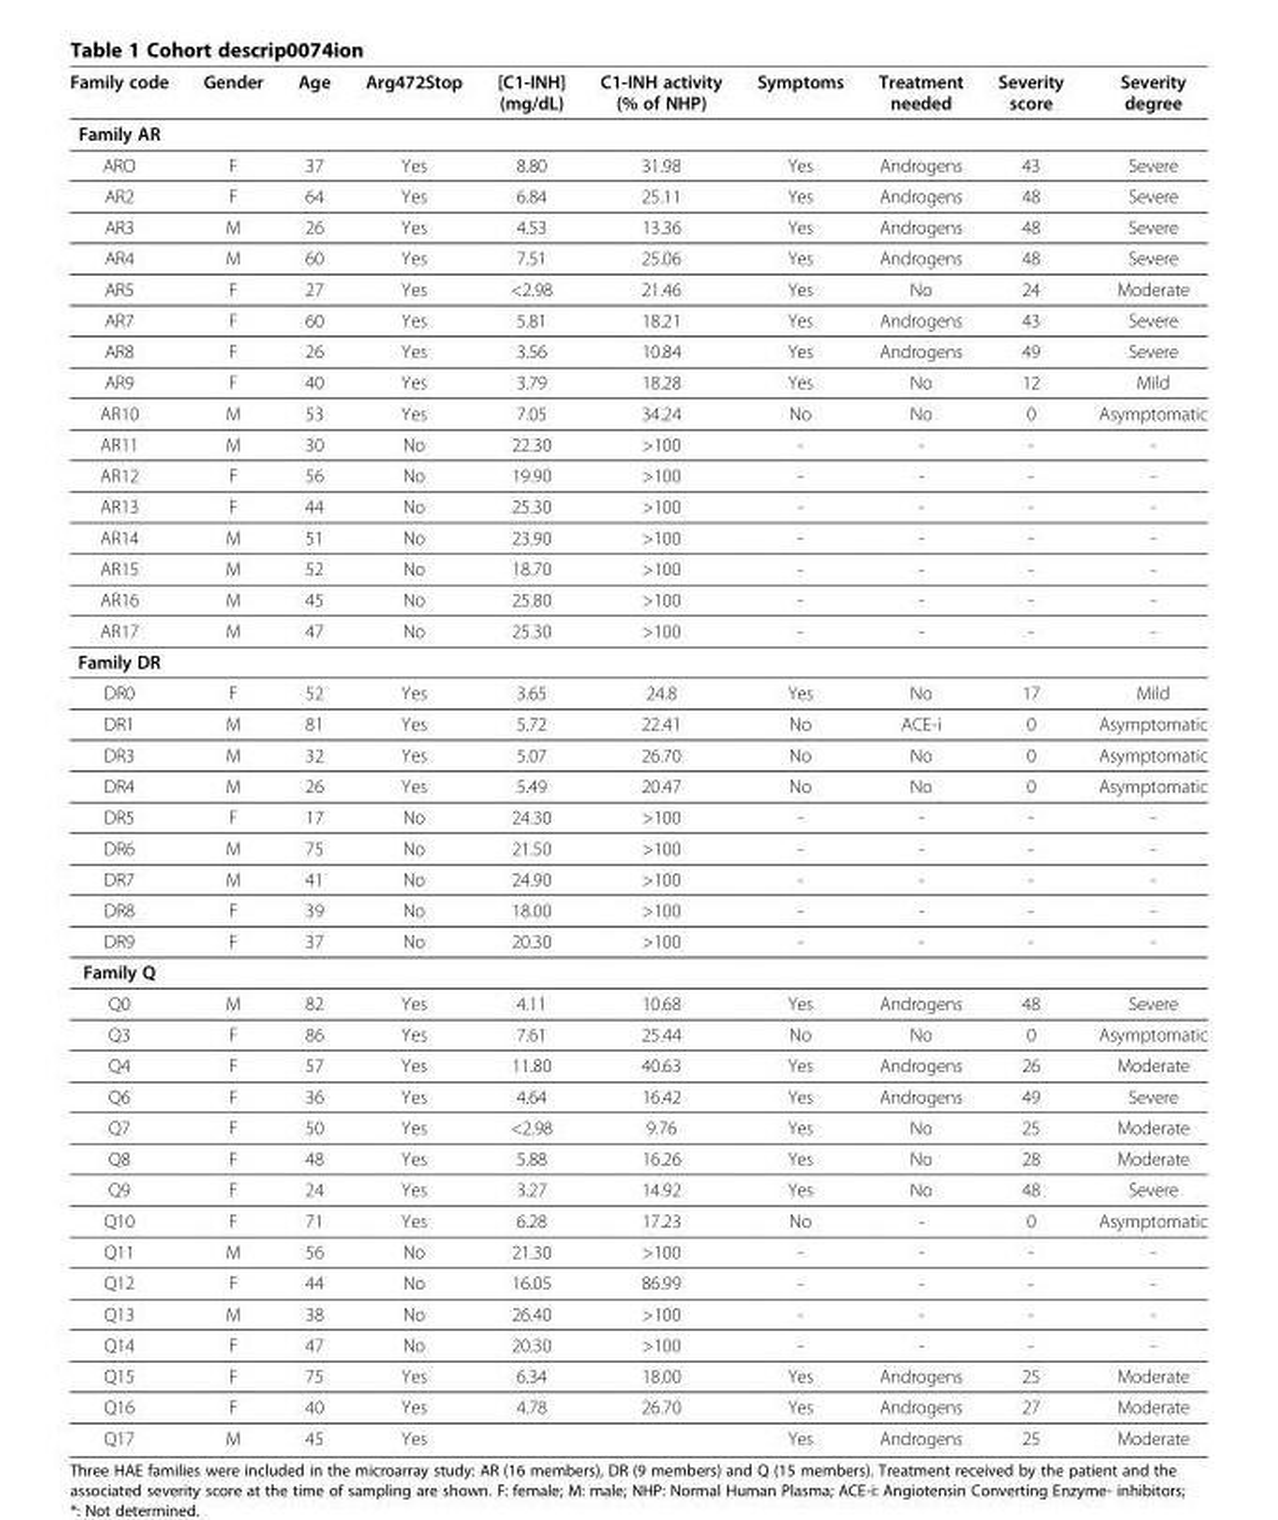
<table><thead><tr><td>Family code</td><td>Gender</td><td>Age</td><td>Arg472Stop</td><td>[C1-INH] (mg/dL)</td><td>C1-INH activity (% of NHP)</td><td>Symptoms</td><td>Treatment needed</td><td>Severity score</td><td>Severity degree</td></tr></thead><tbody><tr><td colspan="10">Family AR</td></tr><tr><td>ARO</td><td>F</td><td>37</td><td>Yes</td><td>8.80</td><td>31.98</td><td>Yes</td><td>Androgens</td><td>43</td><td>Severe</td></tr><tr><td>AR2</td><td>F</td><td>64</td><td>Yes</td><td>6.84</td><td>25.11</td><td>Yes</td><td>Androgens</td><td>48</td><td>Severe</td></tr><tr><td>AR3</td><td>M</td><td>26</td><td>Yes</td><td>4.53</td><td>13.36</td><td>Yes</td><td>Androgens</td><td>48</td><td>Severe</td></tr><tr><td>AR4</td><td>M</td><td>60</td><td>Yes</td><td>7.51</td><td>25.06</td><td>Yes</td><td>Androgens</td><td>48</td><td>Severe</td></tr><tr><td>AR5</td><td>F</td><td>27</td><td>Yes</td><td>&lt;2.98</td><td>21.46</td><td>Yes</td><td>No</td><td>24</td><td>Moderate</td></tr><tr><td>AR7</td><td>F</td><td>60</td><td>Yes</td><td>5.81</td><td>18.21</td><td>Yes</td><td>Androgens</td><td>43</td><td>Severe</td></tr><tr><td>AR8</td><td>F</td><td>26</td><td>Yes</td><td>3.56</td><td>10.84</td><td>Yes</td><td>Androgens</td><td>49</td><td>Severe</td></tr><tr><td>AR9</td><td>F</td><td>40</td><td>Yes</td><td>3.79</td><td>18.28</td><td>Yes</td><td>No</td><td>12</td><td>Mild</td></tr><tr><td>AR10</td><td>M</td><td>53</td><td>Yes</td><td>7.05</td><td>34.24</td><td>No</td><td>No</td><td>0</td><td>Asymptomatic</td></tr><tr><td>AR11</td><td>M</td><td>30</td><td>No</td><td>22.30</td><td>&gt;100</td><td>-</td><td>-</td><td>-</td><td>-</td></tr><tr><td>AR12</td><td>F</td><td>56</td><td>No</td><td>19.90</td><td>&gt;100</td><td>-</td><td>-</td><td>-</td><td>-</td></tr><tr><td>AR13</td><td>F</td><td>44</td><td>No</td><td>25.30</td><td>&gt;100</td><td>-</td><td>-</td><td>-</td><td>-</td></tr><tr><td>AR14</td><td>M</td><td>51</td><td>No</td><td>23.90</td><td>&gt;100</td><td>-</td><td>-</td><td>-</td><td>-</td></tr><tr><td>AR15</td><td>M</td><td>52</td><td>No</td><td>18.70</td><td>&gt;100</td><td>-</td><td>-</td><td>-</td><td>-</td></tr><tr><td>AR16</td><td>M</td><td>45</td><td>No</td><td>25.80</td><td>&gt;100</td><td>-</td><td>-</td><td>-</td><td>-</td></tr><tr><td>AR17</td><td>M</td><td>47</td><td>No</td><td>25.30</td><td>&gt;100</td><td>-</td><td>-</td><td>-</td><td>-</td></tr><tr><td colspan="10">Family DR</td></tr><tr><td>DR0</td><td>F</td><td>52</td><td>Yes</td><td>3.65</td><td>24.8</td><td>Yes</td><td>No</td><td>17</td><td>Mild</td></tr><tr><td>DR1</td><td>M</td><td>81</td><td>Yes</td><td>5.72</td><td>22.41</td><td>No</td><td>ACE-i</td><td>0</td><td>Asymptomatic</td></tr><tr><td>DR3</td><td>M</td><td>32</td><td>Yes</td><td>5.07</td><td>26.70</td><td>No</td><td>No</td><td>0</td><td>Asymptomatic</td></tr><tr><td>DR4</td><td>M</td><td>26</td><td>Yes</td><td>5.49</td><td>20.47</td><td>No</td><td>No</td><td>0</td><td>Asymptomatic</td></tr><tr><td>DR5</td><td>F</td><td>17</td><td>No</td><td>24.30</td><td>&gt;100</td><td>-</td><td>-</td><td>-</td><td>-</td></tr><tr><td>DR6</td><td>M</td><td>75</td><td>No</td><td>21.50</td><td>&gt;100</td><td>-</td><td>-</td><td>-</td><td>-</td></tr><tr><td>DR7</td><td>M</td><td>41</td><td>No</td><td>24.90</td><td>&gt;100</td><td>-</td><td>-</td><td>-</td><td>-</td></tr><tr><td>DR8</td><td>F</td><td>39</td><td>No</td><td>18.00</td><td>&gt;100</td><td>-</td><td>-</td><td>-</td><td>-</td></tr><tr><td>DR9</td><td>F</td><td>37</td><td>No</td><td>20.30</td><td>&gt;100</td><td>-</td><td>-</td><td>-</td><td>-</td></tr><tr><td colspan="10">Family Q</td></tr><tr><td>Q0</td><td>M</td><td>82</td><td>Yes</td><td>4.11</td><td>10.68</td><td>Yes</td><td>Androgens</td><td>48</td><td>Severe</td></tr><tr><td>Q3</td><td>F</td><td>86</td><td>Yes</td><td>7.61</td><td>25.44</td><td>No</td><td>No</td><td>0</td><td>Asymptomatic</td></tr><tr><td>Q4</td><td>F</td><td>57</td><td>Yes</td><td>11.80</td><td>40.63</td><td>Yes</td><td>Androgens</td><td>26</td><td>Moderate</td></tr><tr><td>Q6</td><td>F</td><td>36</td><td>Yes</td><td>4.64</td><td>16.42</td><td>Yes</td><td>Androgens</td><td>49</td><td>Severe</td></tr><tr><td>Q7</td><td>F</td><td>50</td><td>Yes</td><td>&lt;2.98</td><td>9.76</td><td>Yes</td><td>No</td><td>25</td><td>Moderate</td></tr><tr><td>Q8</td><td>F</td><td>48</td><td>Yes</td><td>5.88</td><td>16.26</td><td>Yes</td><td>No</td><td>28</td><td>Moderate</td></tr><tr><td>Q9</td><td>F</td><td>24</td><td>Yes</td><td>3.27</td><td>14.92</td><td>Yes</td><td>No</td><td>48</td><td>Severe</td></tr><tr><td>Q10</td><td>F</td><td>71</td><td>Yes</td><td>6.28</td><td>17.23</td><td>No</td><td>-</td><td>0</td><td>Asymptomatic</td></tr><tr><td>Q11</td><td>M</td><td>56</td><td>No</td><td>21.30</td><td>&gt;100</td><td>-</td><td>-</td><td>-</td><td>-</td></tr><tr><td>Q12</td><td>F</td><td>44</td><td>No</td><td>16.05</td><td>86.99</td><td>-</td><td>-</td><td>-</td><td>-</td></tr><tr><td>Q13</td><td>M</td><td>38</td><td>No</td><td>26.40</td><td>&gt;100</td><td>-</td><td>-</td><td>-</td><td>-</td></tr><tr><td>Q14</td><td>F</td><td>47</td><td>No</td><td>20.30</td><td>&gt;100</td><td>-</td><td>-</td><td>-</td><td>-</td></tr><tr><td>Q15</td><td>F</td><td>75</td><td>Yes</td><td>6.34</td><td>18.00</td><td>Yes</td><td>Androgens</td><td>25</td><td>Moderate</td></tr><tr><td>Q16</td><td>F</td><td>40</td><td>Yes</td><td>4.78</td><td>26.70</td><td>Yes</td><td>Androgens</td><td>27</td><td>Moderate</td></tr><tr><td>Q17</td><td>M</td><td>45</td><td>Yes</td><td></td><td></td><td>Yes</td><td>Androgens</td><td>25</td><td>Moderate</td></tr></tbody></table>